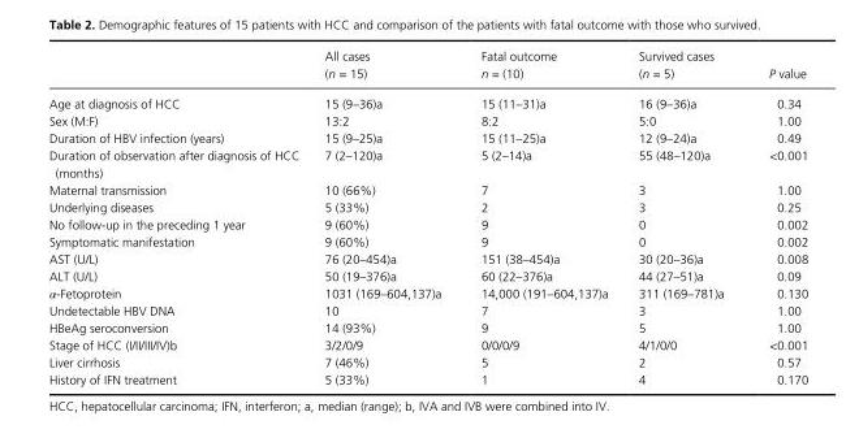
<table><thead><tr><td></td><td>All cases (n = 15)</td><td>Fatal outcome n = (10)</td><td>Survived cases (n = 5)</td><td>P value</td></tr></thead><tbody><tr><td>Age at diagnosis of HCC</td><td>15 (9–36)a</td><td>15 (11–31)a</td><td>16 (9–36)a</td><td>0.34</td></tr><tr><td>Sex (M:F)</td><td>13:2</td><td>8:2</td><td>5:0</td><td>1.00</td></tr><tr><td>Duration of HBV infection (years)</td><td>15 (9–25)a</td><td>15 (11–25)a</td><td>12 (9–24)a</td><td>0.49</td></tr><tr><td>Duration of observation after diagnosis of HCC (months)</td><td>7 (2–120)a</td><td>5 (2–14)a</td><td>55 (48–120)a</td><td>&lt;0.001</td></tr><tr><td>Maternal transmission</td><td>10 (66%)</td><td>7</td><td>3</td><td>1.00</td></tr><tr><td>Underlying diseases</td><td>5 (33%)</td><td>2</td><td>3</td><td>0.25</td></tr><tr><td>No follow- up in the preceding 1 year</td><td>9 (60%)</td><td>9</td><td>0</td><td>0.002</td></tr><tr><td>Symptomatic manifestation</td><td>9 (60%)</td><td>9</td><td>0</td><td>0.002</td></tr><tr><td>AST (U/L)</td><td>76 (20–454)a</td><td>151 (38–454)a</td><td>30 (20–36)a</td><td>0.008</td></tr><tr><td>ALT (U/L)</td><td>50 (19–376)a</td><td>60 (22–376)a</td><td>44 (27–51)a</td><td>0.09</td></tr><tr><td>α- Fetoprotein</td><td>1031 (169–604,137)a</td><td>14,000 (191–604,137)a</td><td>311 (169–781)a</td><td>0.130</td></tr><tr><td>Undetectable HBV DNA</td><td>10</td><td>7</td><td>3</td><td>1.00</td></tr><tr><td>HBeAg seroconversion</td><td>14 (93%)</td><td>9</td><td>5</td><td>1.00</td></tr><tr><td>Stage of HCC (I/II/III/IV)b</td><td>3/2/0/9</td><td>0/0/0/9</td><td>4/1/0/0</td><td>&lt;0.001</td></tr><tr><td>Liver cirrhosis</td><td>7 (46%)</td><td>5</td><td>2</td><td>0.57</td></tr><tr><td>History of IFN treatment</td><td>5 (33%)</td><td>1</td><td>4</td><td>0.170</td></tr></tbody></table>